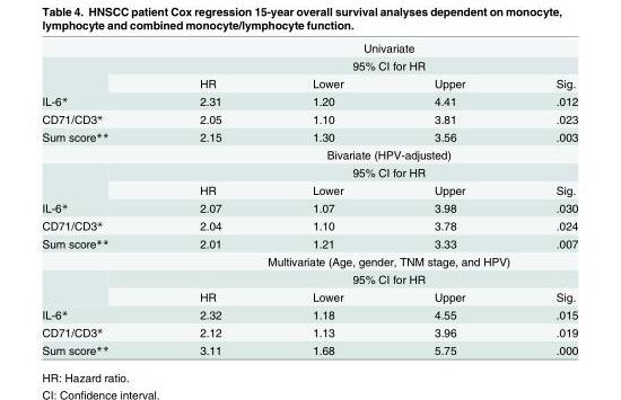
<table><thead><tr><td rowspan="3"></td><td rowspan="2" colspan="4">Univariate 95% CI for HR</td></tr><tr></tr><tr><td>HR</td><td>Lower</td><td>Upper</td><td>Sig.</td></tr></thead><tbody><tr><td>IL-6*</td><td>2.31</td><td>1.20</td><td>4.41</td><td>.012</td></tr><tr><td>CD71/CD3*</td><td>2.05</td><td>1.10</td><td>3.81</td><td>.023</td></tr><tr><td rowspan="4">Sum score**</td><td>2.15</td><td>1.30</td><td>3.56</td><td>.003</td></tr><tr><td colspan="4">Bivariate (HPV-adjusted)</td></tr><tr><td colspan="4">95% CI for HR</td></tr><tr><td>HR</td><td>Lower</td><td>Upper</td><td>Sig.</td></tr><tr><td>IL-6*</td><td>2.07</td><td>1.07</td><td>3.98</td><td>.030</td></tr><tr><td>CD71/CD3*</td><td>2.04</td><td>1.10</td><td>3.78</td><td>.024</td></tr><tr><td rowspan="4">Sum score**</td><td>2.01</td><td>1.21</td><td>3.33</td><td>.007</td></tr><tr><td colspan="4">Multivariate (Age, gender, TNM stage, and HPV)</td></tr><tr><td colspan="4">95% CI for HR</td></tr><tr><td>HR</td><td>Lower</td><td>Upper</td><td>Sig.</td></tr><tr><td>IL-6*</td><td>2.32</td><td>1.18</td><td>4.55</td><td>.015</td></tr><tr><td>CD71/CD3*</td><td>2.12</td><td>1.13</td><td>3.96</td><td>.019</td></tr><tr><td>Sum score**</td><td>3.11</td><td>1.68</td><td>5.75</td><td>.000</td></tr></tbody></table>